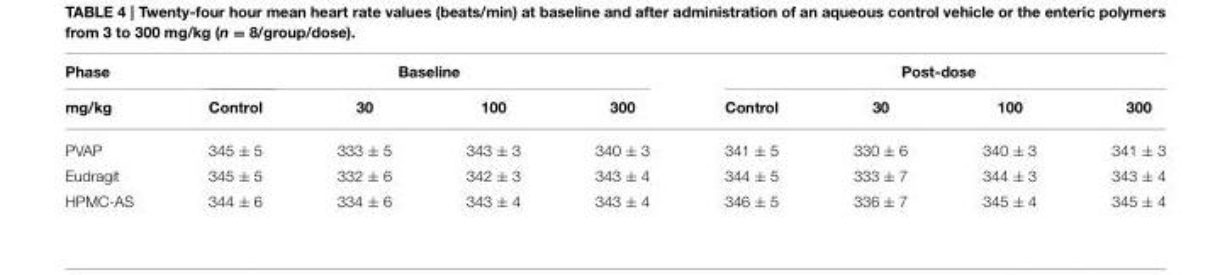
<table><thead><tr><td rowspan="2">Phase mg/kg</td><td colspan="4">Baseline</td><td colspan="4">Post-dose</td></tr><tr><td>Control</td><td>30</td><td>100</td><td>300</td><td>Control</td><td>30</td><td>100</td><td>300</td></tr></thead><tbody><tr><td>PVAP</td><td>345 ± 5</td><td>333 ± 5</td><td>343 ± 3</td><td>340 ± 3</td><td>341 ± 5</td><td>330 ± 6</td><td>340 ± 3</td><td>341 ± 3</td></tr><tr><td>Eudragit</td><td>345 ± 5</td><td>332 ± 6</td><td>342 ± 3</td><td>343 ± 4</td><td>344 ± 5</td><td>333 ± 7</td><td>344 ± 3</td><td>343 ± 4</td></tr><tr><td>HPMC-AS</td><td>344 ± 6</td><td>334 ± 6</td><td>343 ± 4</td><td>343 ± 4</td><td>346 ± 5</td><td>336 ± 7</td><td>345 ± 4</td><td>345 ± 4</td></tr></tbody></table>